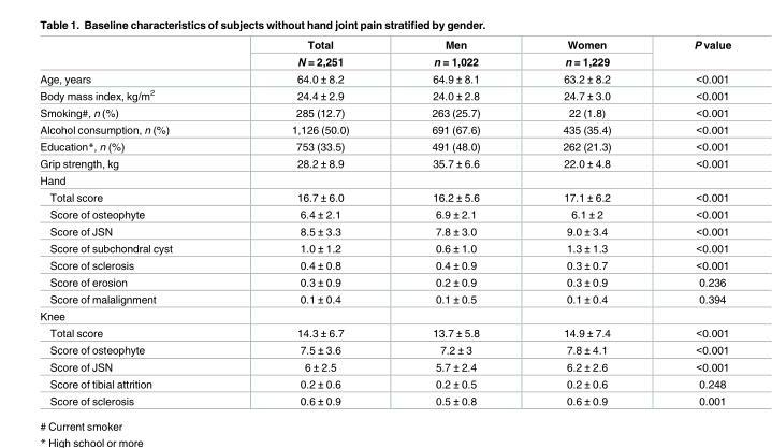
<table><thead><tr><td rowspan="2"></td><td rowspan="2">Total N = 2,251</td><td rowspan="2">Men n = 1,022</td><td rowspan="2">Women n = 1,229</td><td rowspan="2">P value</td></tr><tr></tr></thead><tbody><tr><td>Age, years</td><td>64.0 ± 8.2</td><td>64.9 ± 8.1</td><td>63.2 ± 8.2</td><td>&lt;0.001</td></tr><tr><td>Body mass index, kg/m<sup>2</sup></td><td>24.4 ± 2.9</td><td>24.0 ± 2.8</td><td>24.7 ± 3.0</td><td>&lt;0.001</td></tr><tr><td>Smoking#, n (%)</td><td>285 (12.7)</td><td>263 (25.7)</td><td>22 (1.8)</td><td>&lt;0.001</td></tr><tr><td>Alcohol consumption, n (%)</td><td>1,126 (50.0)</td><td>691 (67.6)</td><td>435 (35.4)</td><td>&lt;0.001</td></tr><tr><td>Education*, n (%)</td><td>753 (33.5)</td><td>491 (48.0)</td><td>262 (21.3)</td><td>&lt;0.001</td></tr><tr><td>Grip strength, kg</td><td>28.2 ± 8.9</td><td>35.7 ± 6.6</td><td>22.0 ± 4.8</td><td>&lt;0.001</td></tr><tr><td colspan="5">Hand</td></tr><tr><td>Total score</td><td>16.7 ± 6.0</td><td>16.2 ± 5.6</td><td>17.1 ± 6.2</td><td>&lt;0.001</td></tr><tr><td>Score of osteophyte</td><td>6.4 ± 2.1</td><td>6.9 ± 2.1</td><td>6.1 ± 2</td><td>&lt;0.001</td></tr><tr><td>Score of JSN</td><td>8.5 ± 3.3</td><td>7.8 ± 3.0</td><td>9.0 ± 3.4</td><td>&lt;0.001</td></tr><tr><td>Score of subchondral cyst</td><td>1.0 ± 1.2</td><td>0.6 ± 1.0</td><td>1.3 ± 1.3</td><td>&lt;0.001</td></tr><tr><td>Score of sclerosis</td><td>0.4 ± 0.8</td><td>0.4 ± 0.9</td><td>0.3 ± 0.7</td><td>&lt;0.001</td></tr><tr><td>Score of erosion</td><td>0.3 ± 0.9</td><td>0.2 ± 0.9</td><td>0.3 ± 0.9</td><td>0.236</td></tr><tr><td>Score of malalignment</td><td>0.1 ± 0.4</td><td>0.1 ± 0.5</td><td>0.1 ± 0.4</td><td>0.394</td></tr><tr><td colspan="5">Knee</td></tr><tr><td>Total score</td><td>14.3 ± 6.7</td><td>13.7 ± 5.8</td><td>14.9 ± 7.4</td><td>&lt;0.001</td></tr><tr><td>Score of osteophyte</td><td>7.5 ± 3.6</td><td>7.2 ± 3</td><td>7.8 ± 4.1</td><td>&lt;0.001</td></tr><tr><td>Score of JSN</td><td>6 ± 2.5</td><td>5.7 ± 2.4</td><td>6.2 ± 2.6</td><td>&lt;0.001</td></tr><tr><td>Score of tibial attrition</td><td>0.2 ± 0.6</td><td>0.2 ± 0.5</td><td>0.2 ± 0.6</td><td>0.248</td></tr><tr><td>Score of sclerosis</td><td>0.6 ± 0.9</td><td>0.5 ± 0.8</td><td>0.6 ± 0.9</td><td>0.001</td></tr></tbody></table>